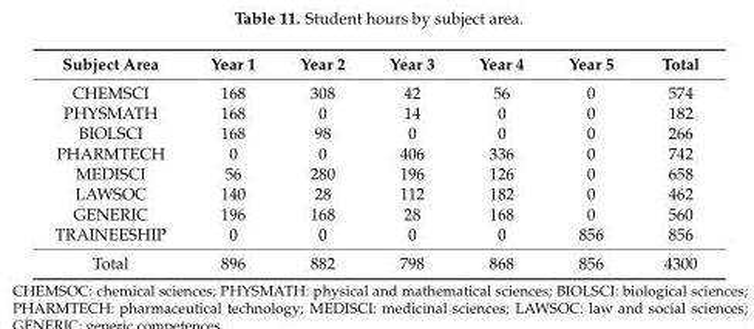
<table><thead><tr><td>Subject Area</td><td>Year 1</td><td>Year 2</td><td>Year 3</td><td>Year 4</td><td>Year 5</td><td>Total</td></tr></thead><tbody><tr><td>CHEMSCI</td><td>168</td><td>308</td><td>42</td><td>56</td><td>0</td><td>574</td></tr><tr><td>PHYSMATH</td><td>168</td><td>0</td><td>14</td><td>0</td><td>0</td><td>182</td></tr><tr><td>BIOLSCI</td><td>168</td><td>98</td><td>0</td><td>0</td><td>0</td><td>266</td></tr><tr><td>PHARMTECH</td><td>0</td><td>0</td><td>406</td><td>336</td><td>0</td><td>742</td></tr><tr><td>MEDISCI</td><td>56</td><td>280</td><td>196</td><td>126</td><td>0</td><td>658</td></tr><tr><td>LAWSOC</td><td>140</td><td>28</td><td>112</td><td>182</td><td>0</td><td>462</td></tr><tr><td>GENERIC</td><td>196</td><td>168</td><td>28</td><td>168</td><td>0</td><td>560</td></tr><tr><td>TRAINEESHIP</td><td>0</td><td>0</td><td>0</td><td>0</td><td>856</td><td>856</td></tr><tr><td>Total</td><td>896</td><td>882</td><td>798</td><td>868</td><td>856</td><td>4300</td></tr></tbody></table>